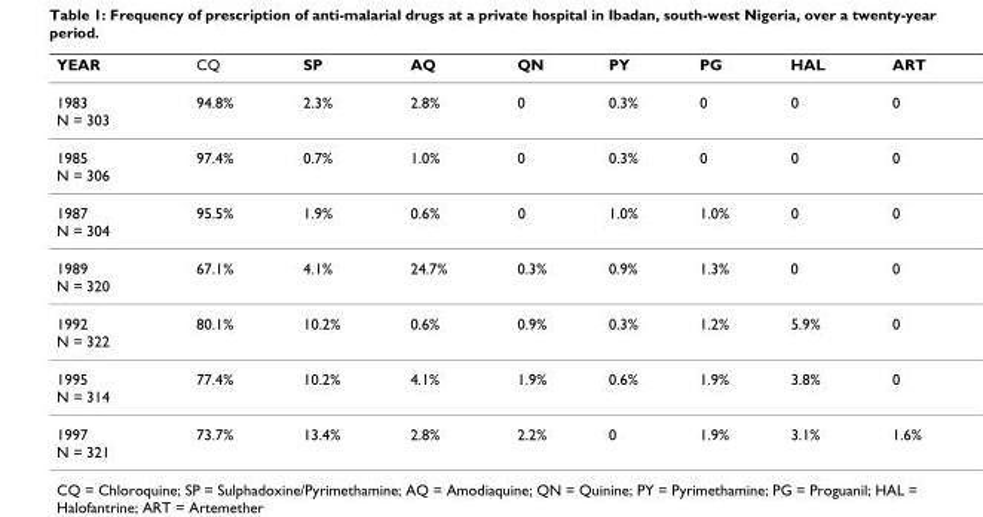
<table><thead><tr><td>YEAR</td><td>CQ</td><td>SP</td><td>AQ</td><td>QN</td><td>PY</td><td>PG</td><td>HAL</td><td>ART</td></tr></thead><tbody><tr><td>1983 N = 303</td><td>94.8%</td><td>2.3%</td><td>2.8%</td><td>0</td><td>0.3%</td><td>0</td><td>0</td><td>0</td></tr><tr><td>1985 N = 306</td><td>97.4%</td><td>0.7%</td><td>1.0%</td><td>0</td><td>0.3%</td><td>0</td><td>0</td><td>0</td></tr><tr><td>1987 N = 304</td><td>95.5%</td><td>1.9%</td><td>0.6%</td><td>0</td><td>1.0%</td><td>1.0%</td><td>0</td><td>0</td></tr><tr><td>1989 N = 320</td><td>67.1%</td><td>4.1%</td><td>24.7%</td><td>0.3%</td><td>0.9%</td><td>1.3%</td><td>0</td><td>0</td></tr><tr><td>1992 N = 322</td><td>80.1%</td><td>10.2%</td><td>0.6%</td><td>0.9%</td><td>0.3%</td><td>1.2%</td><td>5.9%</td><td>0</td></tr><tr><td>1995 N = 314</td><td>77.4%</td><td>10.2%</td><td>4.1%</td><td>1.9%</td><td>0.6%</td><td>1.9%</td><td>3.8%</td><td>0</td></tr><tr><td>1997 N = 321</td><td>73.7%</td><td>13.4%</td><td>2.8%</td><td>2.2%</td><td>0</td><td>1.9%</td><td>3.1%</td><td>1.6%</td></tr></tbody></table>